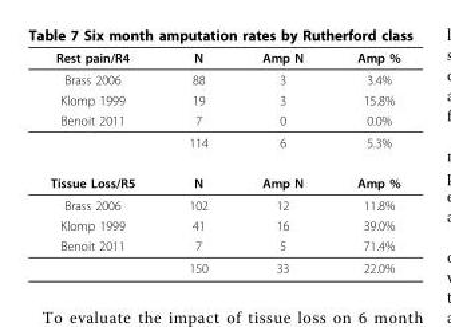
<table><thead><tr><td>Rest pain/R4</td><td>N</td><td>Amp N</td><td>Amp %</td></tr></thead><tbody><tr><td>Brass 2006</td><td>88</td><td>3</td><td>3.4%</td></tr><tr><td>Klomp 1999</td><td>19</td><td>3</td><td>15.8%</td></tr><tr><td rowspan="2">Benoit 2011</td><td>7</td><td>0</td><td>0.0%</td></tr><tr><td>114</td><td>6</td><td>5.3%</td></tr><tr><td>Tissue Loss/R5</td><td>N</td><td>Amp N</td><td>Amp %</td></tr><tr><td>Brass 2006</td><td>102</td><td>12</td><td>11.8%</td></tr><tr><td>Klomp 1999</td><td>41</td><td>16</td><td>39.0%</td></tr><tr><td rowspan="2">Benoit 2011</td><td>7</td><td>5</td><td>71.4%</td></tr><tr><td>150</td><td>33</td><td>22.0%</td></tr></tbody></table>